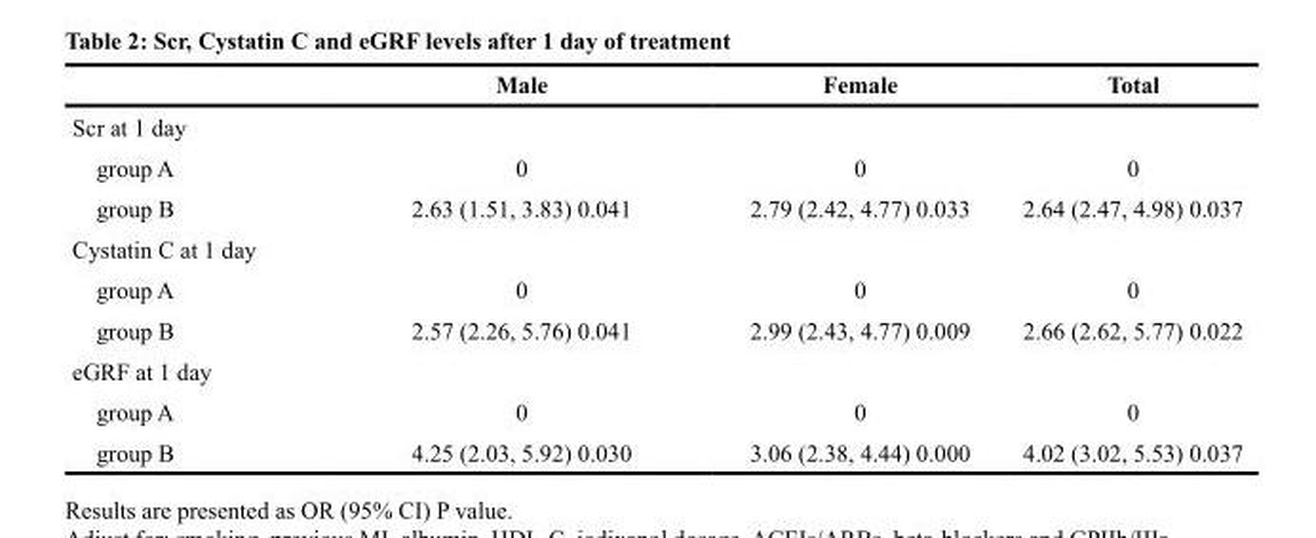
<table><thead><tr><td></td><td>Male</td><td>Female</td><td>Total</td></tr></thead><tbody><tr><td colspan="4">Scr at 1 day</td></tr><tr><td>group A</td><td>0</td><td>0</td><td>0</td></tr><tr><td>group B</td><td>2.63 (1.51, 3.83) 0.041</td><td>2.79 (2.42, 4.77) 0.033</td><td>2.64 (2.47, 4.98) 0.037</td></tr><tr><td colspan="4">Cystatin C at 1 day</td></tr><tr><td>group A</td><td>0</td><td>0</td><td>0</td></tr><tr><td>group B</td><td>2.57 (2.26, 5.76) 0.041</td><td>2.99 (2.43, 4.77) 0.009</td><td>2.66 (2.62, 5.77) 0.022</td></tr><tr><td colspan="4">eGRF at 1 day</td></tr><tr><td>group A</td><td>0</td><td>0</td><td>0</td></tr><tr><td>group B</td><td>4.25 (2.03, 5.92) 0.030</td><td>3.06 (2.38, 4.44) 0.000</td><td>4.02 (3.02, 5.53) 0.037</td></tr></tbody></table>